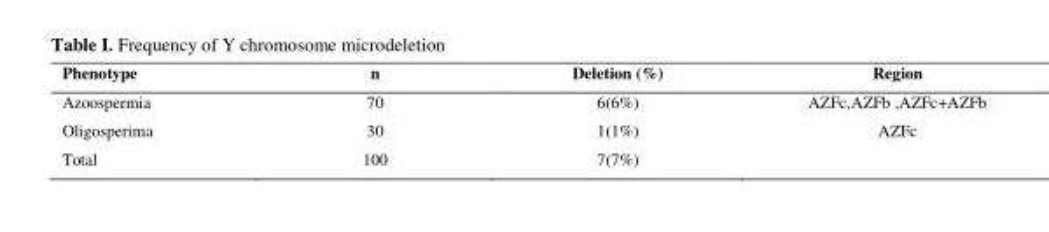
<table><thead><tr><td>Phenotype</td><td>n</td><td>Deletion (%)</td><td>Region</td></tr></thead><tbody><tr><td>Azoospermia</td><td>70</td><td>6(6%)</td><td>AZFc,AZFb ,AZFc+AZFb</td></tr><tr><td>Oligosperima</td><td>30</td><td>1(1%)</td><td>AZFc</td></tr><tr><td>Total</td><td>100</td><td>7(7%)</td><td></td></tr></tbody></table>